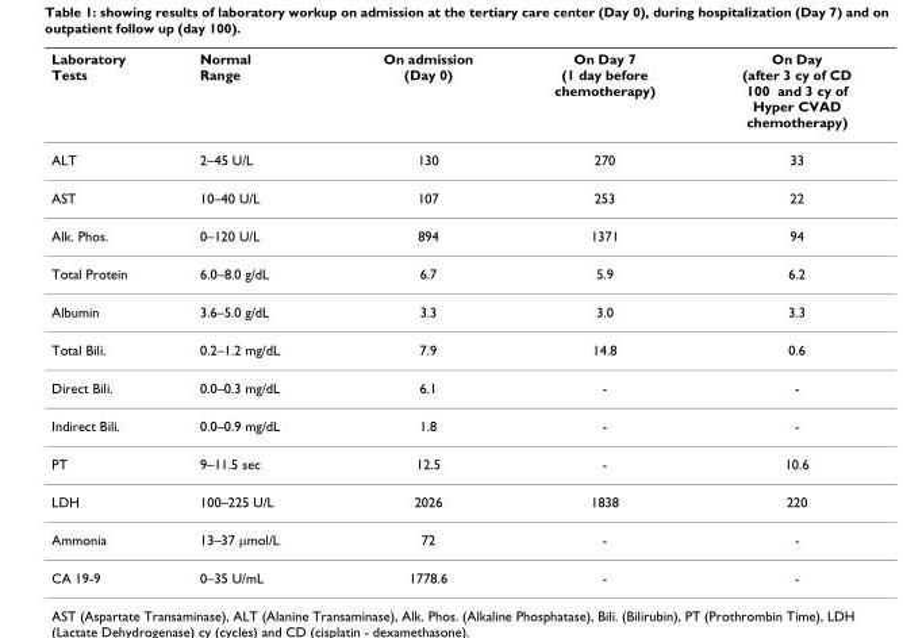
<table><thead><tr><td>Laboratory Tests</td><td>Normal Range</td><td>On admission (Day 0)</td><td>On Day 7 (1 day before chemotherapy)</td><td>On Day (after 3 cy of CD 100 and 3 cy of Hyper CVAD chemotherapy)</td></tr></thead><tbody><tr><td>ALT</td><td>2–45 U/L</td><td>130</td><td>270</td><td>33</td></tr><tr><td>AST</td><td>10–40 U/L</td><td>107</td><td>253</td><td>22</td></tr><tr><td>Alk. Phos.</td><td>0–120 U/L</td><td>894</td><td>1371</td><td>94</td></tr><tr><td>Total Protein</td><td>6.0–8.0 g/dL</td><td>6.7</td><td>5.9</td><td>6.2</td></tr><tr><td>Albumin</td><td>3.6–5.0 g/dL</td><td>3.3</td><td>3.0</td><td>3.3</td></tr><tr><td>Total Bili.</td><td>0.2–1.2 mg/dL</td><td>7.9</td><td>14.8</td><td>0.6</td></tr><tr><td>Direct Bili.</td><td>0.0–0.3 mg/dL</td><td>6.1</td><td>-</td><td>-</td></tr><tr><td>Indirect Bili.</td><td>0.0–0.9 mg/dL</td><td>1.8</td><td>-</td><td>-</td></tr><tr><td>PT</td><td>9–11.5 sec</td><td>12.5</td><td>-</td><td>10.6</td></tr><tr><td>LDH</td><td>100–225 U/L</td><td>2026</td><td>1838</td><td>220</td></tr><tr><td>Ammonia</td><td>13–37 μmol/L</td><td>72</td><td>-</td><td>-</td></tr><tr><td>CA 19-9</td><td>0–35 U/mL</td><td>1778.6</td><td>-</td><td>-</td></tr></tbody></table>